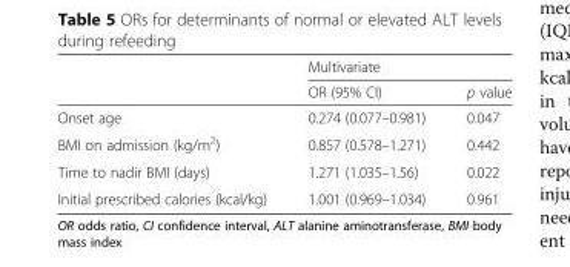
<table><thead><tr><td rowspan="2"></td><td colspan="2">Multivariate</td></tr><tr><td>OR (95% CI)</td><td>p value</td></tr></thead><tbody><tr><td>Onset age</td><td>0.274 (0.077–0.981)</td><td>0.047</td></tr><tr><td>BMI on admission (kg/m<sup>2</sup>)</td><td>0.857 (0.578–1.271)</td><td>0.442</td></tr><tr><td>Time to nadir BMI (days)</td><td>1.271 (1.035–1.56)</td><td>0.022</td></tr><tr><td>Initial prescribed calories (kcal/kg)</td><td>1.001 (0.969–1.034)</td><td>0.961</td></tr></tbody></table>